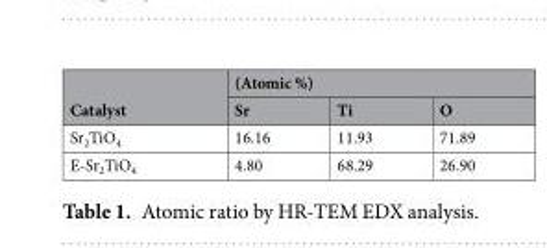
<table><thead><tr><td rowspan="2">Catalyst</td><td colspan="3">(Atomic %)</td></tr><tr><td>Sr</td><td>Ti</td><td>O</td></tr></thead><tbody><tr><td>Sr<sub>2</sub>TiO<sub>4</sub></td><td>16.16</td><td>11.93</td><td>71.89</td></tr><tr><td>E-Sr<sub>2</sub>TiO<sub>4</sub></td><td>4.80</td><td>68.29</td><td>26.90</td></tr></tbody></table>